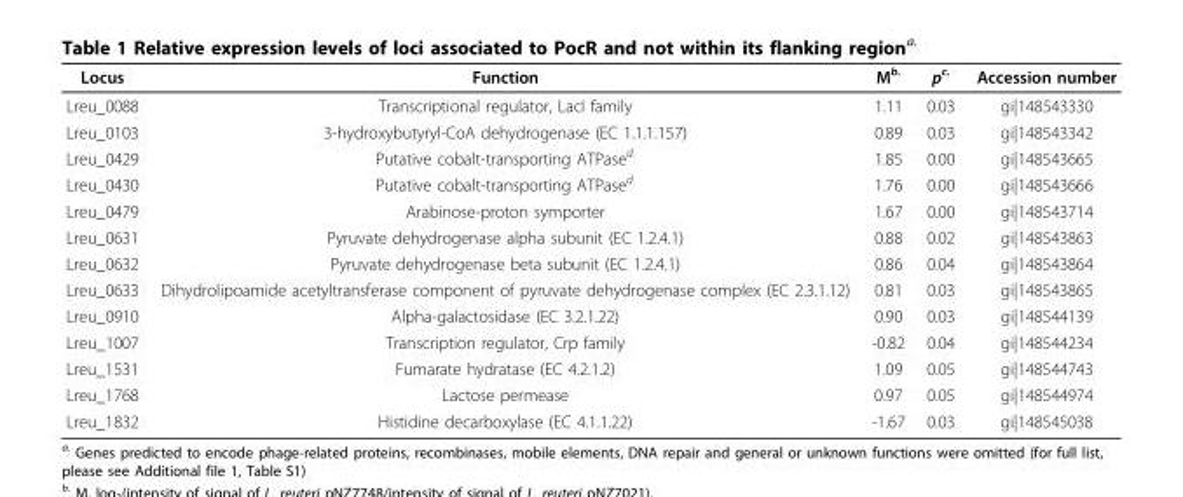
<table><thead><tr><td>Locus</td><td>Function</td><td>M<sup>b.</sup></td><td>p<sup>c.</sup></td><td>Accession number</td></tr></thead><tbody><tr><td>Lreu_0088</td><td>Transcriptional regulator, LacI family</td><td>1.11</td><td>0.03</td><td>gi|148543330</td></tr><tr><td>Lreu_0103</td><td>3-hydroxybutyryl-CoA dehydrogenase (EC 1.1.1.157)</td><td>0.89</td><td>0.03</td><td>gi|148543342</td></tr><tr><td>Lreu_0429</td><td>Putative cobalt-transporting ATPase<sup>d.</sup></td><td>1.85</td><td>0.00</td><td>gi|148543665</td></tr><tr><td>Lreu_0430</td><td>Putative cobalt-transporting ATPase<sup>d.</sup></td><td>1.76</td><td>0.00</td><td>gi|148543666</td></tr><tr><td>Lreu_0479</td><td>Arabinose-proton symporter</td><td>1.67</td><td>0.00</td><td>gi|148543714</td></tr><tr><td>Lreu_0631</td><td>Pyruvate dehydrogenase alpha subunit (EC 1.2.4.1)</td><td>0.88</td><td>0.02</td><td>gi|148543863</td></tr><tr><td>Lreu_0632</td><td>Pyruvate dehydrogenase beta subunit (EC 1.2.4.1)</td><td>0.86</td><td>0.04</td><td>gi|148543864</td></tr><tr><td>Lreu_0633</td><td>Dihydrolipoamide acetyltransferase component of pyruvate dehydrogenase complex (EC 2.3.1.12)</td><td>0.81</td><td>0.03</td><td>gi|148543865</td></tr><tr><td>Lreu_0910</td><td>Alpha-galactosidase (EC 3.2.1.22)</td><td>0.90</td><td>0.03</td><td>gi|148544139</td></tr><tr><td>Lreu_1007</td><td>Transcription regulator, Crp family</td><td>-0.82</td><td>0.04</td><td>gi|148544234</td></tr><tr><td>Lreu_1531</td><td>Fumarate hydratase (EC 4.2.1.2)</td><td>1.09</td><td>0.05</td><td>gi|148544743</td></tr><tr><td>Lreu_1768</td><td>Lactose permease</td><td>0.97</td><td>0.05</td><td>gi|148544974</td></tr><tr><td>Lreu_1832</td><td>Histidine decarboxylase (EC 4.1.1.22)</td><td>-1.67</td><td>0.03</td><td>gi|148545038</td></tr></tbody></table>